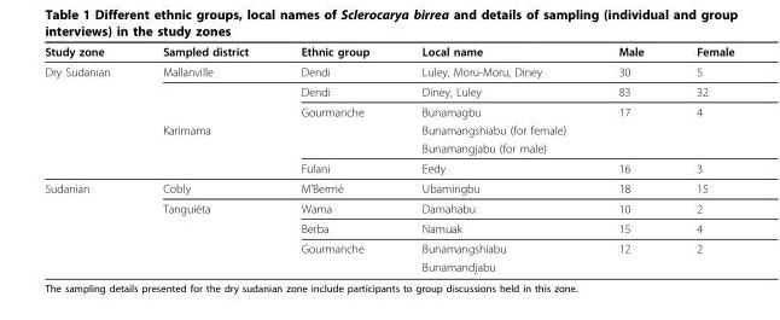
<table><thead><tr><td>Study zone</td><td>Sampled district</td><td>Ethnic group</td><td>Local name</td><td>Male</td><td>Female</td></tr></thead><tbody><tr><td rowspan="6">Dry Sudanian</td><td>Mallanville</td><td>Dendi</td><td>Luley, Moru-Moru, Diney</td><td>30</td><td>5</td></tr><tr><td></td><td>Dendi</td><td>Diney, Luley</td><td>83</td><td>32</td></tr><tr><td></td><td>Gourmanche</td><td>Bunamagbu</td><td>17</td><td>4</td></tr><tr><td>Karimama</td><td></td><td>Bunamangshiabu (for female)</td><td></td><td></td></tr><tr><td></td><td></td><td>Bunamangjabu (for male)</td><td></td><td></td></tr><tr><td></td><td>Fulani</td><td>Eedy</td><td>16</td><td>3</td></tr><tr><td rowspan="5">Sudanian</td><td>Cobly</td><td>M’Bermè</td><td>Ubamingbu</td><td>18</td><td>15</td></tr><tr><td>Tanguiéta</td><td>Wama</td><td>Damahabu</td><td>10</td><td>2</td></tr><tr><td></td><td>Berba</td><td>Namuak</td><td>15</td><td>4</td></tr><tr><td></td><td>Gourmanche</td><td>Bunamangshiabu</td><td>12</td><td>2</td></tr><tr><td></td><td></td><td>Bunamandjabu</td><td></td><td></td></tr></tbody></table>